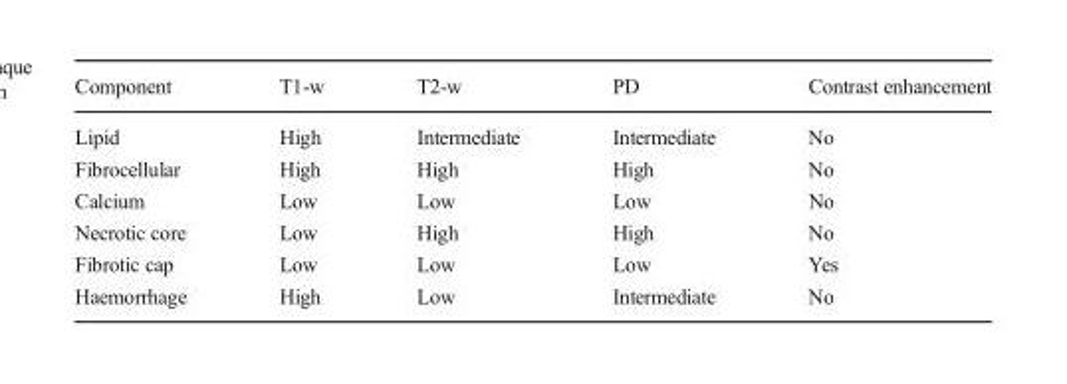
<table><thead><tr><td>Component</td><td>T1-w</td><td>T2-w</td><td>PD</td><td>Contrast enhancement</td></tr></thead><tbody><tr><td>Lipid</td><td>High</td><td>Intermediate</td><td>Intermediate</td><td>No</td></tr><tr><td>Fibrocellular</td><td>High</td><td>High</td><td>High</td><td>No</td></tr><tr><td>Calcium</td><td>Low</td><td>Low</td><td>Low</td><td>No</td></tr><tr><td>Necrotic core</td><td>Low</td><td>High</td><td>High</td><td>No</td></tr><tr><td>Fibrotic cap</td><td>Low</td><td>Low</td><td>Low</td><td>Yes</td></tr><tr><td>Haemorrhage</td><td>High</td><td>Low</td><td>Intermediate</td><td>No</td></tr></tbody></table>